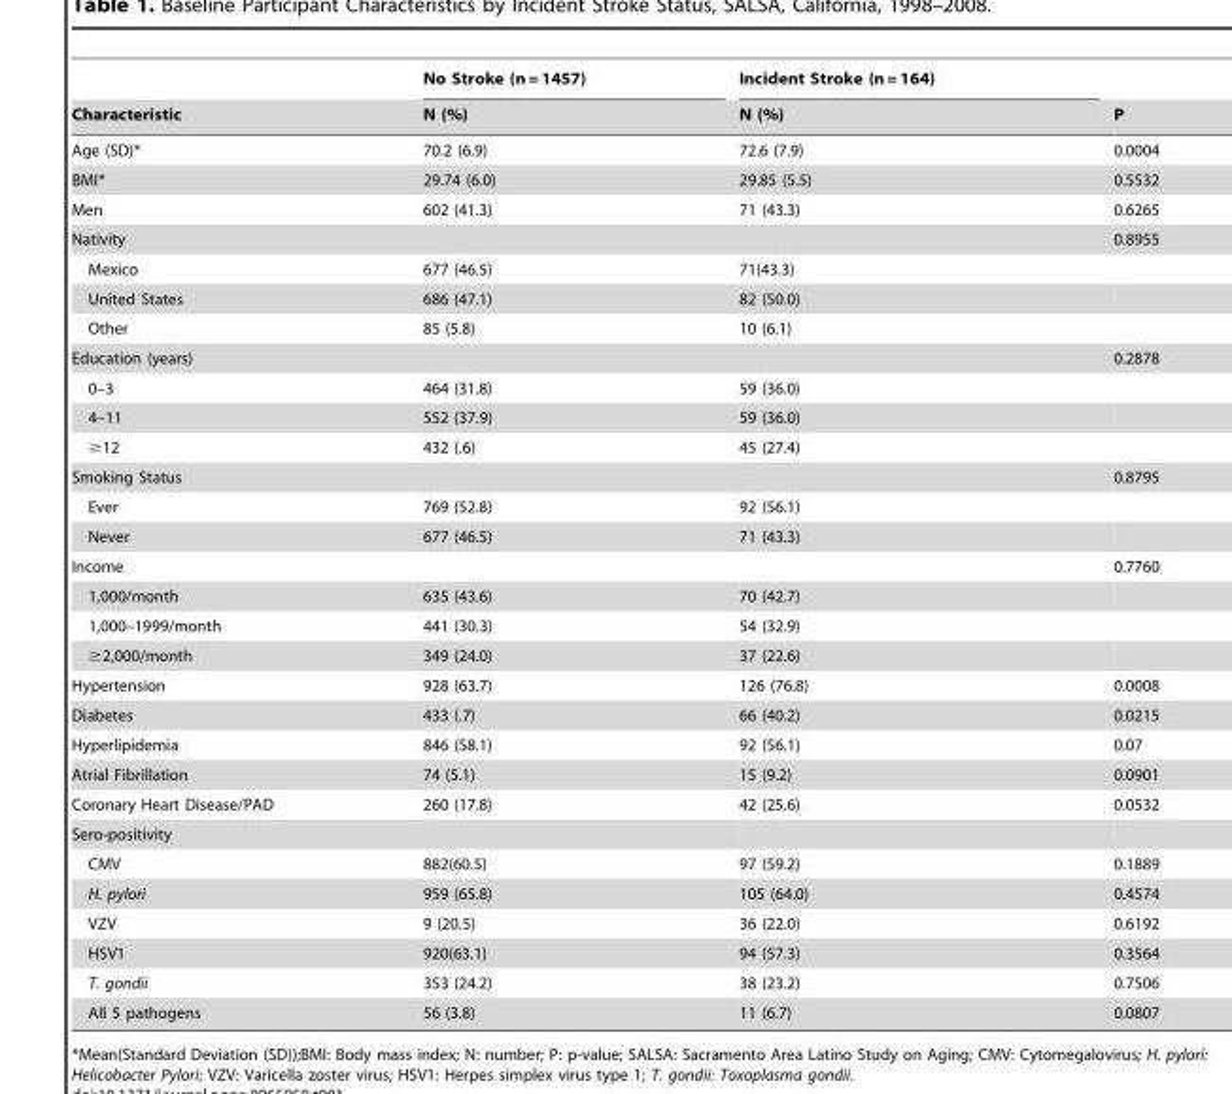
<table><thead><tr><td rowspan="2">Characteristic</td><td rowspan="2">No Stroke (n = 1457) N (%)</td><td rowspan="2">Incident Stroke (n = 164) N (%)</td><td rowspan="2">P</td></tr><tr></tr></thead><tbody><tr><td>Age (SD)*</td><td>70.2 (6.9)</td><td>72.6 (7.9)</td><td>0.0004</td></tr><tr><td>BMI*</td><td>29.74 (6.0)</td><td>29.85 (5.5)</td><td>0.5532</td></tr><tr><td>Men</td><td>602 (41.3)</td><td>71 (43.3)</td><td>0.6265</td></tr><tr><td>Nativity</td><td></td><td></td><td>0.8955</td></tr><tr><td>Mexico</td><td>677 (46.5)</td><td>71(43.3)</td><td></td></tr><tr><td>United States</td><td>686 (47.1)</td><td>82 (50.0)</td><td></td></tr><tr><td>Other</td><td>85 (5.8)</td><td>10 (6.1)</td><td></td></tr><tr><td>Education (years)</td><td></td><td></td><td>0.2878</td></tr><tr><td>0–3</td><td>464 (31.8)</td><td>59 (36.0)</td><td></td></tr><tr><td>4–11</td><td>552 (37.9)</td><td>59 (36.0)</td><td></td></tr><tr><td>≥12</td><td>432 (.6)</td><td>45 (27.4)</td><td></td></tr><tr><td>Smoking Status</td><td></td><td></td><td>0.8795</td></tr><tr><td>Ever</td><td>769 (52.8)</td><td>92 (56.1)</td><td></td></tr><tr><td>Never</td><td>677 (46.5)</td><td>71 (43.3)</td><td></td></tr><tr><td>Income</td><td></td><td></td><td>0.7760</td></tr><tr><td>1,000/month</td><td>635 (43.6)</td><td>70 (42.7)</td><td></td></tr><tr><td>1,000–1999/month</td><td>441 (30.3)</td><td>54 (32.9)</td><td></td></tr><tr><td>≥2,000/month</td><td>349 (24.0)</td><td>37 (22.6)</td><td></td></tr><tr><td>Hypertension</td><td>928 (63.7)</td><td>126 (76.8)</td><td>0.0008</td></tr><tr><td>Diabetes</td><td>433 (.7)</td><td>66 (40.2)</td><td>0.0215</td></tr><tr><td>Hyperlipidemia</td><td>846 (58.1)</td><td>92 (56.1)</td><td>0.07</td></tr><tr><td>Atrial Fibrillation</td><td>74 (5.1)</td><td>15 (9.2)</td><td>0.0901</td></tr><tr><td>Coronary Heart Disease/PAD</td><td>260 (17.8)</td><td>42 (25.6)</td><td>0.0532</td></tr><tr><td colspan="4">Sero-positivity</td></tr><tr><td>CMV</td><td>882(60.5)</td><td>97 (59.2)</td><td>0.1889</td></tr><tr><td>H. pylori</td><td>959 (65.8)</td><td>105 (64.0)</td><td>0.4574</td></tr><tr><td>VZV</td><td>9 (20.5)</td><td>36 (22.0)</td><td>0.6192</td></tr><tr><td>HSV1</td><td>920(63.1)</td><td>94 (57.3)</td><td>0.3564</td></tr><tr><td>T. gondii</td><td>353 (24.2)</td><td>38 (23.2)</td><td>0.7506</td></tr><tr><td>All 5 pathogens</td><td>56 (3.8)</td><td>11 (6.7)</td><td>0.0807</td></tr></tbody></table>